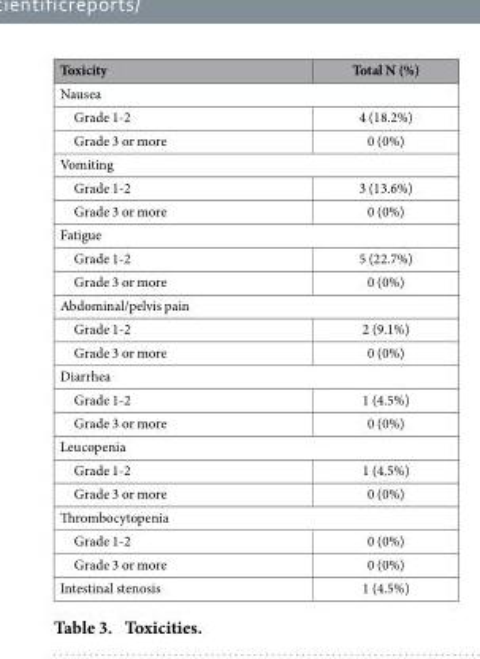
<table><thead><tr><td>Toxicity</td><td>Total N (%)</td></tr></thead><tbody><tr><td colspan="2">Nausea</td></tr><tr><td>Grade 1-2</td><td>4 (18.2%)</td></tr><tr><td>Grade 3 or more</td><td>0 (0%)</td></tr><tr><td colspan="2">Vomiting</td></tr><tr><td>Grade 1-2</td><td>3 (13.6%)</td></tr><tr><td>Grade 3 or more</td><td>0 (0%)</td></tr><tr><td colspan="2">Fatigue</td></tr><tr><td>Grade 1-2</td><td>5 (22.7%)</td></tr><tr><td>Grade 3 or more</td><td>0 (0%)</td></tr><tr><td colspan="2">Abdominal/pelvis pain</td></tr><tr><td>Grade 1-2</td><td>2 (9.1%)</td></tr><tr><td>Grade 3 or more</td><td>0 (0%)</td></tr><tr><td colspan="2">Diarrhea</td></tr><tr><td>Grade 1-2</td><td>1 (4.5%)</td></tr><tr><td>Grade 3 or more</td><td>0 (0%)</td></tr><tr><td colspan="2">Leucopenia</td></tr><tr><td>Grade 1-2</td><td>1 (4.5%)</td></tr><tr><td>Grade 3 or more</td><td>0 (0%)</td></tr><tr><td colspan="2">Thrombocytopenia</td></tr><tr><td>Grade 1-2</td><td>0 (0%)</td></tr><tr><td>Grade 3 or more</td><td>0 (0%)</td></tr><tr><td>Intestinal stenosis</td><td>1 (4.5%)</td></tr></tbody></table>